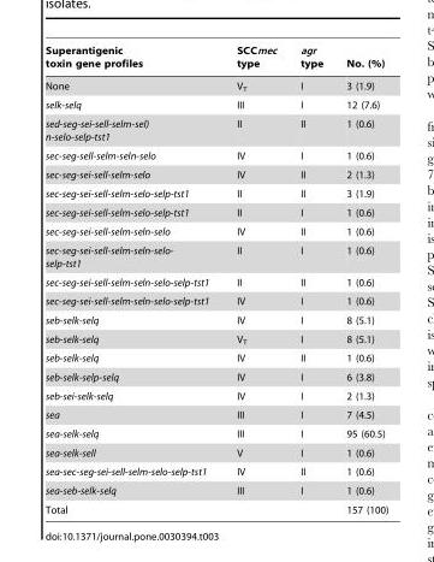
<table><thead><tr><td>Superantigenic toxin gene profiles</td><td>SCCmec type</td><td>agr type</td><td>No. (%)</td></tr></thead><tbody><tr><td>None</td><td>V<sub>T</sub></td><td>I</td><td>3 (1.9)</td></tr><tr><td>selk-selq</td><td>III</td><td>I</td><td>12 (7.6)</td></tr><tr><td>sed-seg-sei-sell-selm-sel) n-selo-selp-tst1</td><td>II</td><td>II</td><td>1 (0.6)</td></tr><tr><td>sec-seg-sell-selm-seln-selo</td><td>IV</td><td>I</td><td>1 (0.6)</td></tr><tr><td>sec-seg-sei-sell-selm-selo</td><td>IV</td><td>II</td><td>2 (1.3)</td></tr><tr><td>sec-seg-sei-sell-selm-selo-selp-tst1</td><td>II</td><td>II</td><td>3 (1.9)</td></tr><tr><td>sec-seg-sei-sell-selm-selo-selp-tst1</td><td>II</td><td>I</td><td>1 (0.6)</td></tr><tr><td>sec-seg-sei-sell-selm-seln-selo</td><td>IV</td><td>II</td><td>1 (0.6)</td></tr><tr><td>sec-seg-sei-sell-selm-seln-selo- selp-tst1</td><td>II</td><td>I</td><td>1 (0.6)</td></tr><tr><td>sec-seg-sei-sell-selm-seln-selo-selp-tst1</td><td>II</td><td>II</td><td>1 (0.6)</td></tr><tr><td>sec-seg-sei-sell-selm-seln-selo-selp-tst1</td><td>IV</td><td>I</td><td>1 (0.6)</td></tr><tr><td>seb-selk-selq</td><td>IV</td><td>I</td><td>8 (5.1)</td></tr><tr><td>seb-selk-selq</td><td>V<sub>T</sub></td><td>I</td><td>8 (5.1)</td></tr><tr><td>seb-selk-selq</td><td>IV</td><td>II</td><td>1 (0.6)</td></tr><tr><td>seb-selk-selp-selq</td><td>IV</td><td>I</td><td>6 (3.8)</td></tr><tr><td>seb-sei-selk-selq</td><td>IV</td><td>I</td><td>2 (1.3)</td></tr><tr><td>sea</td><td>III</td><td>I</td><td>7 (4.5)</td></tr><tr><td>sea-selk-selq</td><td>III</td><td>I</td><td>95 (60.5)</td></tr><tr><td>sea-selk-sell</td><td>V</td><td>I</td><td>1 (0.6)</td></tr><tr><td>sea-sec-seg-sei-sell-selm-selo-selp-tst1</td><td>IV</td><td>II</td><td>1 (0.6)</td></tr><tr><td>sea-seb-selk-selq</td><td>III</td><td>I</td><td>1 (0.6)</td></tr><tr><td>Total</td><td></td><td></td><td>157 (100)</td></tr></tbody></table>